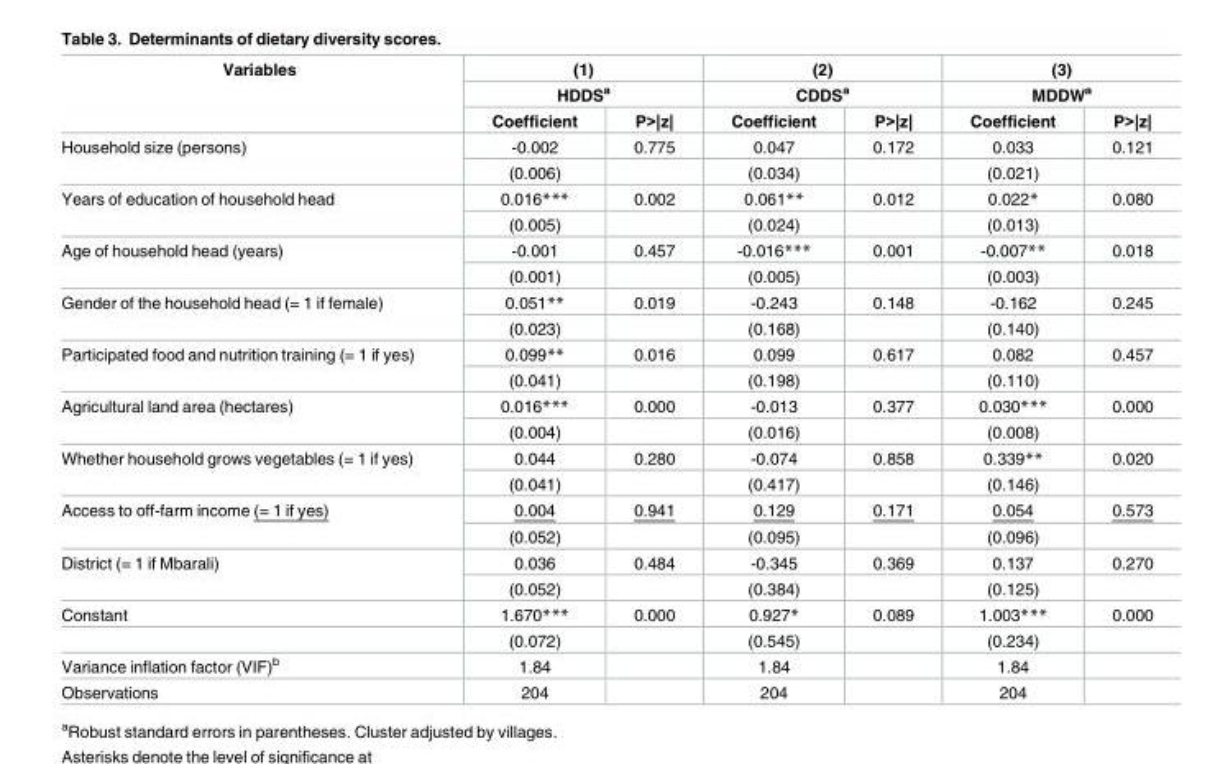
<table><thead><tr><td rowspan="3">Variables</td><td rowspan="2" colspan="2">(1) HDDS<sup>a</sup></td><td rowspan="2" colspan="2">(2) CDDS<sup>a</sup></td><td rowspan="2" colspan="2">(3) MDDW<sup>a</sup></td></tr><tr></tr><tr><td>Coefficient</td><td>P&gt;|z|</td><td>Coefficient</td><td>P&gt;|z|</td><td>Coefficient</td><td>P&gt;|z|</td></tr></thead><tbody><tr><td rowspan="2">Household size (persons)</td><td>-0.002</td><td>0.775</td><td>0.047</td><td>0.172</td><td>0.033</td><td>0.121</td></tr><tr><td>(0.006)</td><td></td><td>(0.034)</td><td></td><td>(0.021)</td><td></td></tr><tr><td rowspan="2">Years of education of household head</td><td>0.016***</td><td>0.002</td><td>0.061**</td><td>0.012</td><td>0.022*</td><td>0.080</td></tr><tr><td>(0.005)</td><td></td><td>(0.024)</td><td></td><td>(0.013)</td><td></td></tr><tr><td rowspan="2">Age of household head (years)</td><td>-0.001</td><td>0.457</td><td>-0.016***</td><td>0.001</td><td>-0.007**</td><td>0.018</td></tr><tr><td>(0.001)</td><td></td><td>(0.005)</td><td></td><td>(0.003)</td><td></td></tr><tr><td rowspan="2">Gender of the household head (= 1 if female)</td><td>0.051**</td><td>0.019</td><td>-0.243</td><td>0.148</td><td>-0.162</td><td>0.245</td></tr><tr><td>(0.023)</td><td></td><td>(0.168)</td><td></td><td>(0.140)</td><td></td></tr><tr><td rowspan="2">Participated food and nutrition training (= 1 if yes)</td><td>0.099**</td><td>0.016</td><td>0.099</td><td>0.617</td><td>0.082</td><td>0.457</td></tr><tr><td>(0.041)</td><td></td><td>(0.198)</td><td></td><td>(0.110)</td><td></td></tr><tr><td rowspan="2">Agricultural land area (hectares)</td><td>0.016***</td><td>0.000</td><td>-0.013</td><td>0.377</td><td>0.030***</td><td>0.000</td></tr><tr><td>(0.004)</td><td></td><td>(0.016)</td><td></td><td>(0.008)</td><td></td></tr><tr><td rowspan="2">Whether household grows vegetables (= 1 if yes)</td><td>0.044</td><td>0.280</td><td>-0.074</td><td>0.858</td><td>0.339**</td><td>0.020</td></tr><tr><td>(0.041)</td><td></td><td>(0.417)</td><td></td><td>(0.146)</td><td></td></tr><tr><td rowspan="2">Access to off-farm income (= 1 if yes)</td><td>0.004</td><td>0.941</td><td>0.129</td><td>0.171</td><td>0.054</td><td>0.573</td></tr><tr><td>(0.052)</td><td></td><td>(0.095)</td><td></td><td>(0.096)</td><td></td></tr><tr><td rowspan="2">District (= 1 if Mbarali)</td><td>0.036</td><td>0.484</td><td>-0.345</td><td>0.369</td><td>0.137</td><td>0.270</td></tr><tr><td>(0.052)</td><td></td><td>(0.384)</td><td></td><td>(0.125)</td><td></td></tr><tr><td rowspan="2">Constant</td><td>1.670***</td><td>0.000</td><td>0.927*</td><td>0.089</td><td>1.003***</td><td>0.000</td></tr><tr><td>(0.072)</td><td></td><td>(0.545)</td><td></td><td>(0.234)</td><td></td></tr><tr><td>Variance inflation factor (VIF)<sup>b</sup></td><td>1.84</td><td></td><td>1.84</td><td></td><td>1.84</td><td></td></tr><tr><td>Observations</td><td>204</td><td></td><td>204</td><td></td><td>204</td><td></td></tr></tbody></table>